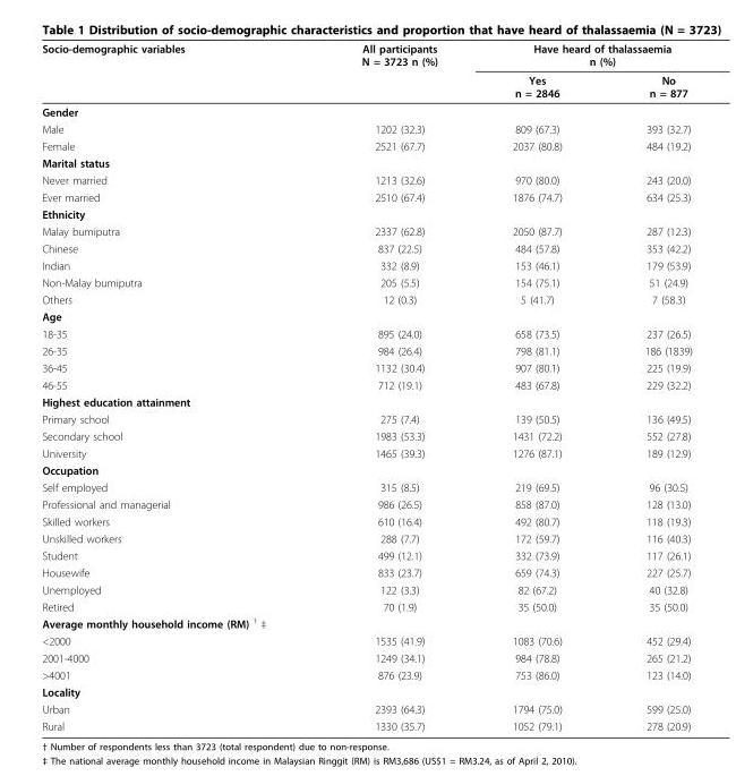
<table><thead><tr><td rowspan="2">Socio-demographic variables</td><td rowspan="2">All participants N = 3723 n (%)</td><td colspan="2">Have heard of thalassaemia n (%)</td></tr><tr><td>Yes n = 2846</td><td>No n = 877</td></tr></thead><tbody><tr><td colspan="4">Gender</td></tr><tr><td>Male</td><td>1202 (32.3)</td><td>809 (67.3)</td><td>393 (32.7)</td></tr><tr><td>Female</td><td>2521 (67.7)</td><td>2037 (80.8)</td><td>484 (19.2)</td></tr><tr><td colspan="4">Marital status</td></tr><tr><td>Never married</td><td>1213 (32.6)</td><td>970 (80.0)</td><td>243 (20.0)</td></tr><tr><td>Ever married</td><td>2510 (67.4)</td><td>1876 (74.7)</td><td>634 (25.3)</td></tr><tr><td colspan="4">Ethnicity</td></tr><tr><td>Malay bumiputra</td><td>2337 (62.8)</td><td>2050 (87.7)</td><td>287 (12.3)</td></tr><tr><td>Chinese</td><td>837 (22.5)</td><td>484 (57.8)</td><td>353 (42.2)</td></tr><tr><td>Indian</td><td>332 (8.9)</td><td>153 (46.1)</td><td>179 (53.9)</td></tr><tr><td>Non-Malay bumiputra</td><td>205 (5.5)</td><td>154 (75.1)</td><td>51 (24.9)</td></tr><tr><td>Others</td><td>12 (0.3)</td><td>5 (41.7)</td><td>7 (58.3)</td></tr><tr><td colspan="4">Age</td></tr><tr><td>18-35</td><td>895 (24.0)</td><td>658 (73.5)</td><td>237 (26.5)</td></tr><tr><td>26-35</td><td>984 (26.4)</td><td>798 (81.1)</td><td>186 (1839)</td></tr><tr><td>36-45</td><td>1132 (30.4)</td><td>907 (80.1)</td><td>225 (19.9)</td></tr><tr><td>46-55</td><td>712 (19.1)</td><td>483 (67.8)</td><td>229 (32.2)</td></tr><tr><td colspan="4">Highest education attainment</td></tr><tr><td>Primary school</td><td>275 (7.4)</td><td>139 (50.5)</td><td>136 (49.5)</td></tr><tr><td>Secondary school</td><td>1983 (53.3)</td><td>1431 (72.2)</td><td>552 (27.8)</td></tr><tr><td>University</td><td>1465 (39.3)</td><td>1276 (87.1)</td><td>189 (12.9)</td></tr><tr><td colspan="4">Occupation</td></tr><tr><td>Self employed</td><td>315 (8.5)</td><td>219 (69.5)</td><td>96 (30.5)</td></tr><tr><td>Professional and managerial</td><td>986 (26.5)</td><td>858 (87.0)</td><td>128 (13.0)</td></tr><tr><td>Skilled workers</td><td>610 (16.4)</td><td>492 (80.7)</td><td>118 (19.3)</td></tr><tr><td>Unskilled workers</td><td>288 (7.7)</td><td>172 (59.7)</td><td>116 (40.3)</td></tr><tr><td>Student</td><td>499 (12.1)</td><td>332 (73.9)</td><td>117 (26.1)</td></tr><tr><td>Housewife</td><td>833 (23.7)</td><td>659 (74.3)</td><td>227 (25.7)</td></tr><tr><td>Unemployed</td><td>122 (3.3)</td><td>82 (67.2)</td><td>40 (32.8)</td></tr><tr><td>Retired</td><td>70 (1.9)</td><td>35 (50.0)</td><td>35 (50.0)</td></tr><tr><td colspan="4">Average monthly household income (RM) <sup>†</sup> ‡</td></tr><tr><td>&lt;2000</td><td>1535 (41.9)</td><td>1083 (70.6)</td><td>452 (29.4)</td></tr><tr><td>2001-4000</td><td>1249 (34.1)</td><td>984 (78.8)</td><td>265 (21.2)</td></tr><tr><td>&gt;4001</td><td>876 (23.9)</td><td>753 (86.0)</td><td>123 (14.0)</td></tr><tr><td colspan="4">Locality</td></tr><tr><td>Urban</td><td>2393 (64.3)</td><td>1794 (75.0)</td><td>599 (25.0)</td></tr><tr><td>Rural</td><td>1330 (35.7)</td><td>1052 (79.1)</td><td>278 (20.9)</td></tr></tbody></table>